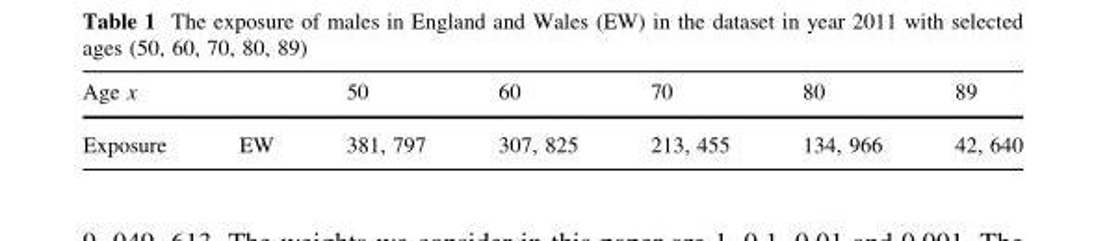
<table><thead><tr><td>Age x</td><td></td><td>50</td><td>60</td><td>70</td><td>80</td><td>89</td></tr></thead><tbody><tr><td>Exposure</td><td>EW</td><td>381, 797</td><td>307, 825</td><td>213, 455</td><td>134, 966</td><td>42, 640</td></tr></tbody></table>